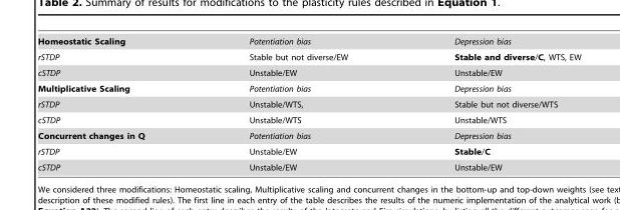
<table><tbody><tr><td>Homeostatic Scaling</td><td>Potentiation bias</td><td>Depression bias</td></tr><tr><td>rSTDP</td><td>Stable but not diverse/EW</td><td>Stable and diverse/C, WTS, EW</td></tr><tr><td>cSTDP</td><td>Unstable/EW</td><td>Unstable/EW</td></tr><tr><td>Multiplicative Scaling</td><td>Potentiation bias</td><td>Depression bias</td></tr><tr><td>rSTDP</td><td>Unstable/WTS,</td><td>Stable but not diverse/WTS</td></tr><tr><td>cSTDP</td><td>Unstable/WTS</td><td>Unstable/WTS</td></tr><tr><td>Concurrent changes in Q</td><td>Potentiation bias</td><td>Depression bias</td></tr><tr><td>rSTDP</td><td>Unstable/EW</td><td>Stable/C</td></tr><tr><td>cSTDP</td><td>Unstable/EW</td><td>Unstable/EW</td></tr></tbody></table>